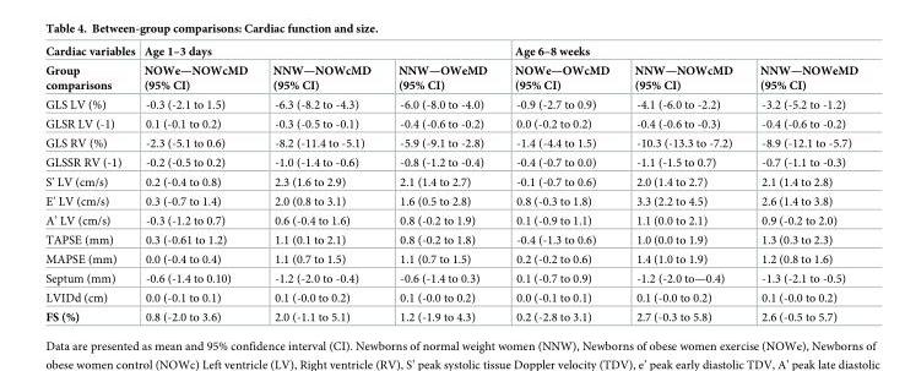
<table><thead><tr><td rowspan="2">Cardiac variables Group comparisons</td><td colspan="3">Age 1–3 days</td><td colspan="3">Age 6–8 weeks</td></tr><tr><td>NOWe—NOWcMD (95% CI)</td><td>NNW—NOWcMD (95% CI)</td><td>NNW—OWeMD (95% CI)</td><td>NOWe—OWcMD (95% CI)</td><td>NNW—NOWcMD (95% CI)</td><td>NNW—NOWeMD (95% CI)</td></tr></thead><tbody><tr><td>GLS LV (%)</td><td>-0.3 (-2.1 to 1.5)</td><td>-6.3 (-8.2 to -4.3)</td><td>-6.0 (-8.0 to -4.0)</td><td>-0.9 (-2.7 to 0.9)</td><td>-4.1 (-6.0 to -2.2)</td><td>-3.2 (-5.2 to -1.2)</td></tr><tr><td>GLSR LV (-1)</td><td>0.1 (-0.1 to 0.2)</td><td>-0.3 (-0.5 to -0.1)</td><td>-0.4 (-0.6 to -0.2)</td><td>0.0 (-0.2 to 0.2)</td><td>-0.4 (-0.6 to -0.3)</td><td>-0.4 (-0.6 to -0.2)</td></tr><tr><td>GLS RV (%)</td><td>-2.3 (-5.1 to 0.6)</td><td>-8.2 (-11.4 to -5.1)</td><td>-5.9 (-9.1 to -2.8)</td><td>-1.4 (-4.4 to 1.5)</td><td>-10.3 (-13.3 to -7.2)</td><td>-8.9 (-12.1 to -5.7)</td></tr><tr><td>GLSSR RV (-1)</td><td>-0.2 (-0.5 to 0.2)</td><td>-1.0 (-1.4 to -0.6)</td><td>-0.8 (-1.2 to -0.4)</td><td>-0.4 (-0.7 to 0.0)</td><td>-1.1 (-1.5 to 0.7)</td><td>-0.7 (-1.1 to -0.3)</td></tr><tr><td>S’ LV (cm/s)</td><td>0.2 (-0.4 to 0.8)</td><td>2.3 (1.6 to 2.9)</td><td>2.1 (1.4 to 2.7)</td><td>-0.1 (-0.7 to 0.6)</td><td>2.0 (1.4 to 2.7)</td><td>2.1 (1.4 to 2.8)</td></tr><tr><td>E’ LV (cm/s)</td><td>0.3 (-0.7 to 1.4)</td><td>2.0 (0.8 to 3.1)</td><td>1.6 (0.5 to 2.8)</td><td>0.8 (-0.3 to 1.8)</td><td>3.3 (2.2 to 4.5)</td><td>2.6 (1.4 to 3.8)</td></tr><tr><td>A’ LV (cm/s)</td><td>-0.3 (-1.2 to 0.7)</td><td>0.6 (-0.4 to 1.6)</td><td>0.8 (-0.2 to 1.9)</td><td>0.1 (-0.9 to 1.1)</td><td>1.1 (0.0 to 2.1)</td><td>0.9 (-0.2 to 2.0)</td></tr><tr><td>TAPSE (mm)</td><td>0.3 (-0.61 to 1.2)</td><td>1.1 (0.1 to 2.1)</td><td>0.8 (-0.2 to 1.8)</td><td>-0.4 (-1.3 to 0.6)</td><td>1.0 (0.0 to 1.9)</td><td>1.3 (0.3 to 2.3)</td></tr><tr><td>MAPSE (mm)</td><td>0.0 (-0.4 to 0.4)</td><td>1.1 (0.7 to 1.5)</td><td>1.1 (0.7 to 1.5)</td><td>0.2 (-0.2 to 0.6)</td><td>1.4 (1.0 to 1.9)</td><td>1.2 (0.8 to 1.6)</td></tr><tr><td>Septum (mm)</td><td>-0.6 (-1.4 to 0.10)</td><td>-1.2 (-2.0 to -0.4)</td><td>-0.6 (-1.4 to 0.3)</td><td>0.1 (-0.7 to 0.9)</td><td>-1.2 (-2.0 to—0.4)</td><td>-1.3 (-2.1 to -0.5)</td></tr><tr><td>LVIDd (cm)</td><td>0.0 (-0.1 to 0.1)</td><td>0.1 (-0.0 to 0.2)</td><td>0.1 (-0.0 to 0.2)</td><td>0.0 (-0.1 to 0.1)</td><td>0.1 (-0.0 to 0.2)</td><td>0.1 (-0.0 to 0.2)</td></tr><tr><td>FS (%)</td><td>0.8 (-2.0 to 3.6)</td><td>2.0 (-1.1 to 5.1)</td><td>1.2 (-1.9 to 4.3)</td><td>0.2 (-2.8 to 3.1)</td><td>2.7 (-0.3 to 5.8)</td><td>2.6 (-0.5 to 5.7)</td></tr></tbody></table>